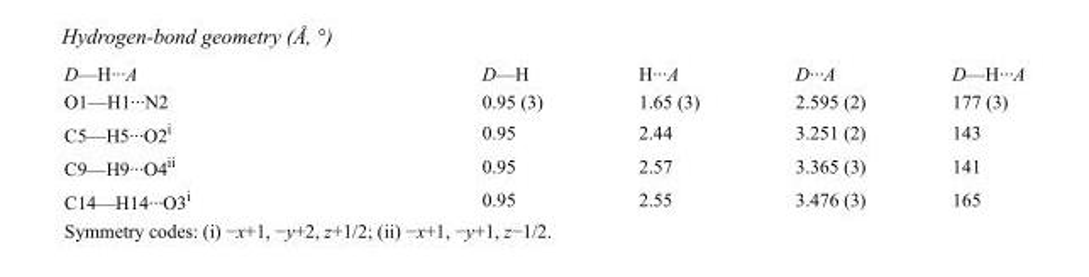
<table><tbody><tr><td>D—H···A</td><td>D—H</td><td>H···A</td><td>D···A</td><td>D—H···A</td></tr><tr><td>O1—H1···N2</td><td>0.95 (3)</td><td>1.65 (3)</td><td>2.595 (2)</td><td>177 (3)</td></tr><tr><td>C5—H5···O2<sup>i</sup></td><td>0.95</td><td>2.44</td><td>3.251 (2)</td><td>143</td></tr><tr><td>C9—H9···O4<sup>ii</sup></td><td>0.95</td><td>2.57</td><td>3.365 (3)</td><td>141</td></tr><tr><td>C14—H14···O3<sup>i</sup></td><td>0.95</td><td>2.55</td><td>3.476 (3)</td><td>165</td></tr></tbody></table>